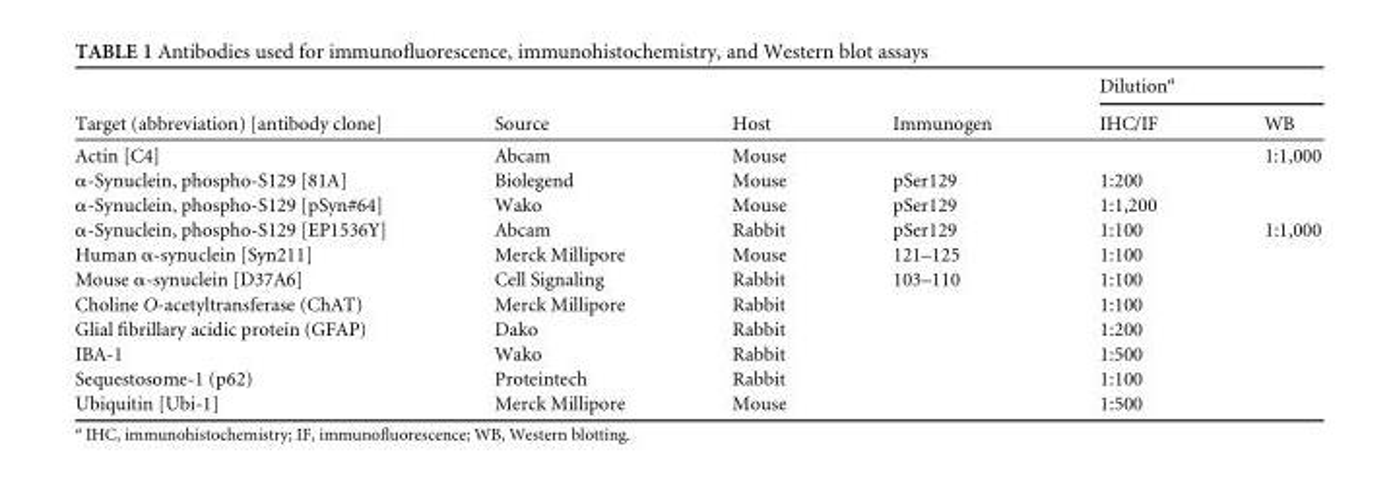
<table><thead><tr><td rowspan="2">Target (abbreviation) [antibody clone]</td><td rowspan="2">Source</td><td rowspan="2">Host</td><td rowspan="2">Immunogen</td><td colspan="2">Dilution<sup>a</sup></td></tr><tr><td>IHC/IF</td><td>WB</td></tr></thead><tbody><tr><td>Actin [C4]</td><td>Abcam</td><td>Mouse</td><td></td><td></td><td>1:1,000</td></tr><tr><td>α-Synuclein, phospho-S129 [81A]</td><td>Biolegend</td><td>Mouse</td><td>pSer129</td><td>1:200</td><td></td></tr><tr><td>α-Synuclein, phospho-S129 [pSyn#64]</td><td>Wako</td><td>Mouse</td><td>pSer129</td><td>1:1,200</td><td></td></tr><tr><td>α-Synuclein, phospho-S129 [EP1536Y]</td><td>Abcam</td><td>Rabbit</td><td>pSer129</td><td>1:100</td><td>1:1,000</td></tr><tr><td>Human α-synuclein [Syn211]</td><td>Merck Millipore</td><td>Mouse</td><td>121–125</td><td>1:100</td><td></td></tr><tr><td>Mouse α-synuclein [D37A6]</td><td>Cell Signaling</td><td>Rabbit</td><td>103–110</td><td>1:100</td><td></td></tr><tr><td>Choline O-acetyltransferase (ChAT)</td><td>Merck Millipore</td><td>Rabbit</td><td></td><td>1:100</td><td></td></tr><tr><td>Glial fibrillary acidic protein (GFAP)</td><td>Dako</td><td>Rabbit</td><td></td><td>1:200</td><td></td></tr><tr><td>IBA-1</td><td>Wako</td><td>Rabbit</td><td></td><td>1:500</td><td></td></tr><tr><td>Sequestosome-1 (p62)</td><td>Proteintech</td><td>Rabbit</td><td></td><td>1:100</td><td></td></tr><tr><td>Ubiquitin [Ubi-1]</td><td>Merck Millipore</td><td>Mouse</td><td></td><td>1:500</td><td></td></tr></tbody></table>